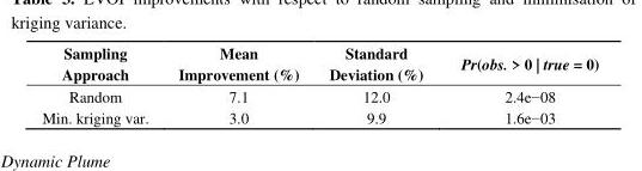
<table><thead><tr><td>Sampling Approach</td><td>Mean Improvement (%)</td><td>Standard Deviation (%)</td><td>Pr(obs. &gt; 0 | true = 0)</td></tr></thead><tbody><tr><td>Random</td><td>7.1</td><td>12.0</td><td>2.4e−08</td></tr><tr><td>Min. kriging var.</td><td>3.0</td><td>9.9</td><td>1.6e−03</td></tr></tbody></table>